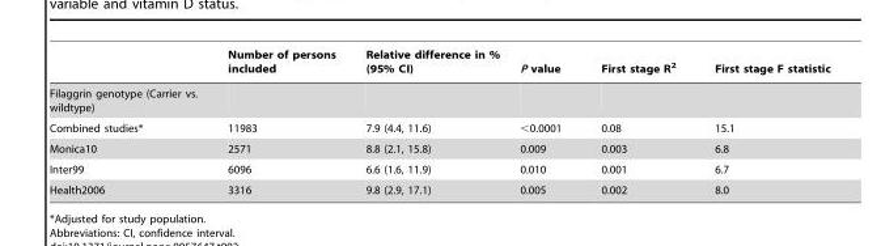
<table><thead><tr><td></td><td>Number of persons included</td><td>Relative difference in % (95% CI)</td><td>P value</td><td>First stage R<sup>2</sup></td><td>First stage F statistic</td></tr></thead><tbody><tr><td colspan="6">Filaggrin genotype (Carrier vs. wildtype)</td></tr><tr><td>Combined studies*</td><td>11983</td><td>7.9 (4.4, 11.6)</td><td>&lt;0.0001</td><td>0.08</td><td>15.1</td></tr><tr><td>Monica10</td><td>2571</td><td>8.8 (2.1, 15.8)</td><td>0.009</td><td>0.003</td><td>6.8</td></tr><tr><td>Inter99</td><td>6096</td><td>6.6 (1.6, 11.9)</td><td>0.010</td><td>0.001</td><td>6.7</td></tr><tr><td>Health2006</td><td>3316</td><td>9.8 (2.9, 17.1)</td><td>0.005</td><td>0.002</td><td>8.0</td></tr></tbody></table>